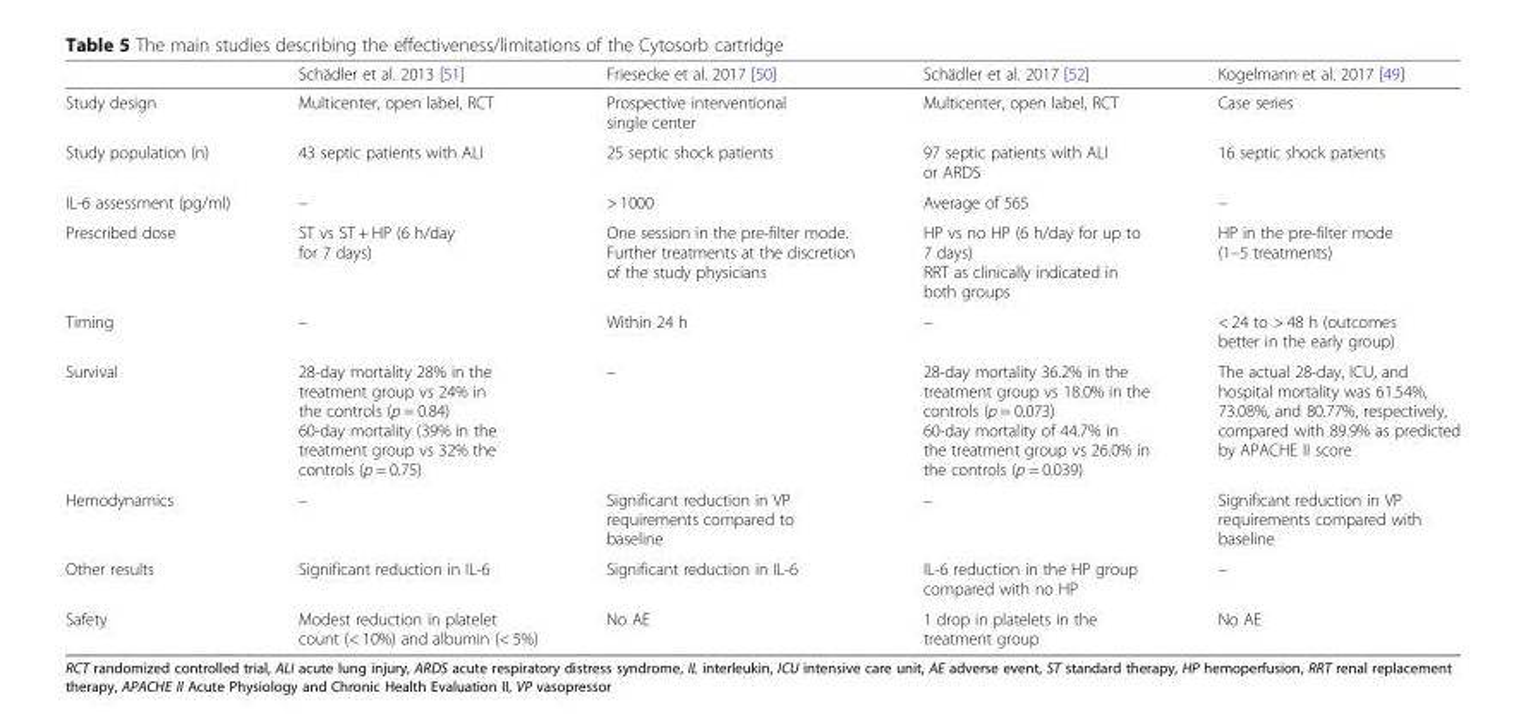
<table><thead><tr><td></td><td>Schädler et al. 2013 [51]</td><td>Friesecke et al. 2017 [50]</td><td>Schädler et al. 2017 [52]</td><td>Kogelmann et al. 2017 [49]</td></tr></thead><tbody><tr><td>Study design</td><td>Multicenter, open label, RCT</td><td>Prospective interventional single center</td><td>Multicenter, open label, RCT</td><td>Case series</td></tr><tr><td>Study population (n)</td><td>43 septic patients with ALI</td><td>25 septic shock patients</td><td>97 septic patients with ALI or ARDS</td><td>16 septic shock patients</td></tr><tr><td>IL-6 assessment (pg/ml)</td><td>–</td><td>&gt; 1000</td><td>Average of 565</td><td>–</td></tr><tr><td>Prescribed dose</td><td>ST vs ST + HP (6 h/day for 7 days)</td><td>One session in the pre-filter mode. Further treatments at the discretion of the study physicians</td><td>HP vs no HP (6 h/day for up to 7 days) RRT as clinically indicated in both groups</td><td>HP in the pre-filter mode (1–5 treatments)</td></tr><tr><td>Timing</td><td>–</td><td>Within 24 h</td><td>–</td><td>&lt; 24 to &gt; 48 h (outcomes better in the early group)</td></tr><tr><td>Survival</td><td>28-day mortality 28% in the treatment group vs 24% in the controls (p = 0.84) 60-day mortality (39% in the treatment group vs 32% the controls (p = 0.75)</td><td>–</td><td>28-day mortality 36.2% in the treatment group vs 18.0% in the controls (p = 0.073) 60-day mortality of 44.7% in the treatment group vs 26.0% in the controls (p = 0.039)</td><td>The actual 28-day, ICU, and hospital mortality was 61.54%, 73.08%, and 80.77%, respectively, compared with 89.9% as predicted by APACHE II score</td></tr><tr><td>Hemodynamics</td><td>–</td><td>Significant reduction in VP requirements compared to baseline</td><td>–</td><td>Significant reduction in VP requirements compared with baseline</td></tr><tr><td>Other results</td><td>Significant reduction in IL-6</td><td>Significant reduction in IL-6</td><td>IL-6 reduction in the HP group compared with no HP</td><td>–</td></tr><tr><td>Safety</td><td>Modest reduction in platelet count (&lt; 10%) and albumin (&lt; 5%)</td><td>No AE</td><td>1 drop in platelets in the treatment group</td><td>No AE</td></tr></tbody></table>